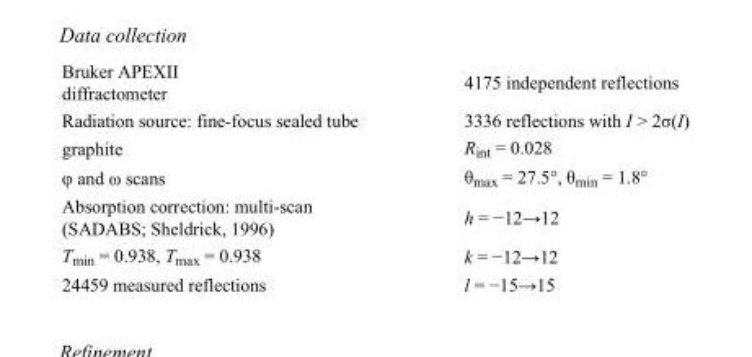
<table><tbody><tr><td>Bruker APEXII diffractometer</td><td>4175 independent reflections</td></tr><tr><td>Radiation source: fine-focus sealed tube</td><td>3336 reflections with I &gt; 2σ(I)</td></tr><tr><td>graphite</td><td>R<sub>int</sub> = 0.028</td></tr><tr><td>φ and ω scans</td><td>θ<sub>max</sub> = 27.5°, θ<sub>min</sub> = 1.8°</td></tr><tr><td>Absorption correction: multi-scan (SADABS; Sheldrick, 1996)</td><td>h = −12→12</td></tr><tr><td>T<sub>min</sub> = 0.938, T<sub>max</sub> = 0.938</td><td>k = −12→12</td></tr><tr><td>24459 measured reflections</td><td>l = −15→15</td></tr></tbody></table>